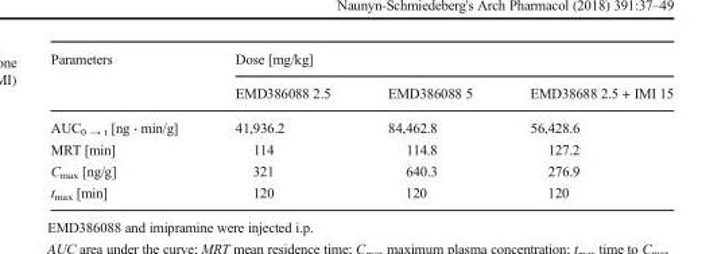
<table><thead><tr><td rowspan="2">Parameters</td><td colspan="3">Dose [mg/kg]</td></tr><tr><td>EMD386088 2.5</td><td>EMD386088 5</td><td>EMD38688 2.5 + IMI 15</td></tr></thead><tbody><tr><td>AUC<sub>0 → t</sub> [ng ⋅ min/g]</td><td>41,936.2</td><td>84,462.8</td><td>56,428.6</td></tr><tr><td>MRT [min]</td><td>114</td><td>114.8</td><td>127.2</td></tr><tr><td>C<sub>max</sub> [ng/g]</td><td>321</td><td>640.3</td><td>276.9</td></tr><tr><td>t<sub>max</sub> [min]</td><td>120</td><td>120</td><td>120</td></tr></tbody></table>